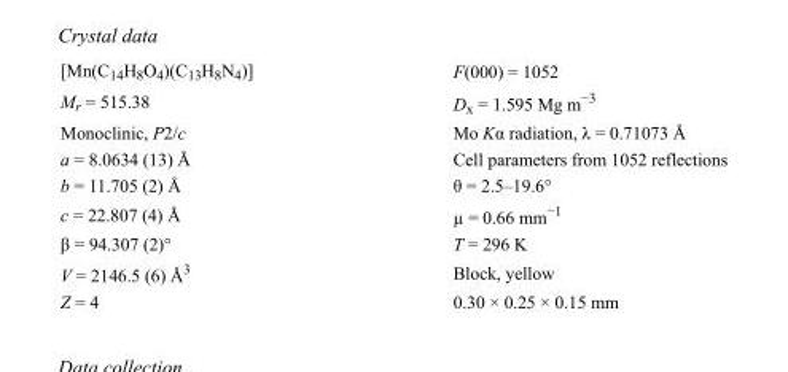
<table><tbody><tr><td>[Mn(C<sub>14</sub>H<sub>8</sub>O<sub>4</sub>)(C<sub>13</sub>H<sub>8</sub>N<sub>4</sub>)]</td><td>F(000) = 1052</td></tr><tr><td>M<sub>r</sub> = 515.38</td><td>D<sub>x</sub> = 1.595 Mg m<sup>−3</sup></td></tr><tr><td>Monoclinic, P2/c</td><td>Mo Kα radiation, λ = 0.71073 Å</td></tr><tr><td>a = 8.0634 (13) Å</td><td>Cell parameters from 1052 reflections</td></tr><tr><td>b = 11.705 (2) Å</td><td>θ = 2.5–19.6°</td></tr><tr><td>c = 22.807 (4) Å</td><td>µ = 0.66 mm<sup>−1</sup></td></tr><tr><td>β = 94.307 (2)°</td><td>T = 296 K</td></tr><tr><td>V = 2146.5 (6) Å<sup>3</sup></td><td>Block, yellow</td></tr><tr><td>Z = 4</td><td>0.30 × 0.25 × 0.15 mm</td></tr></tbody></table>